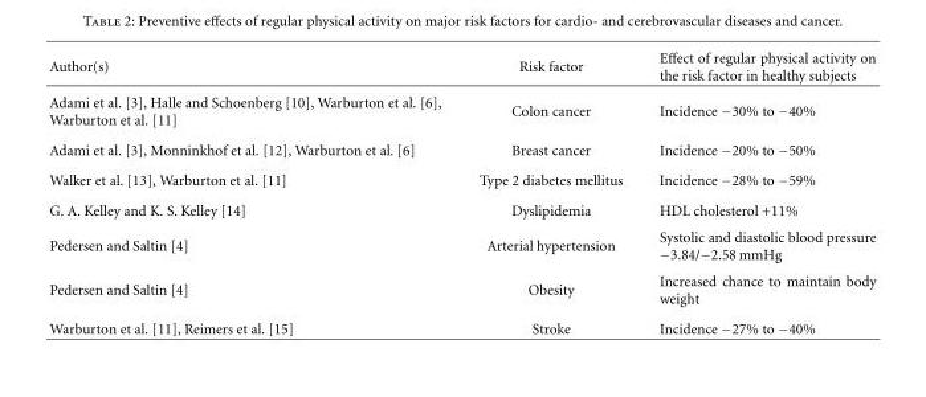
<table><thead><tr><td>Author(s)</td><td>Risk factor</td><td>Effect of regular physical activity on the risk factor in healthy subjects</td></tr></thead><tbody><tr><td>Adami et al. [3], Halle and Schoenberg [10], Warburton et al. [6], Warburton et al. [11]</td><td>Colon cancer</td><td>Incidence −30% to −40%</td></tr><tr><td>Adami et al. [3], Monninkhof et al. [12], Warburton et al. [6]</td><td>Breast cancer</td><td>Incidence −20% to −50%</td></tr><tr><td>Walker et al. [13], Warburton et al. [11]</td><td>Type 2 diabetes mellitus</td><td>Incidence −28% to −59%</td></tr><tr><td>G. A. Kelley and K. S. Kelley [14]</td><td>Dyslipidemia</td><td>HDL cholesterol +11%</td></tr><tr><td>Pedersen and Saltin [4]</td><td>Arterial hypertension</td><td>Systolic and diastolic blood pressure −3.84/−2.58 mmHg</td></tr><tr><td>Pedersen and Saltin [4]</td><td>Obesity</td><td>Increased chance to maintain body weight</td></tr><tr><td>Warburton et al. [11], Reimers et al. [15]</td><td>Stroke</td><td>Incidence −27% to −40%</td></tr></tbody></table>